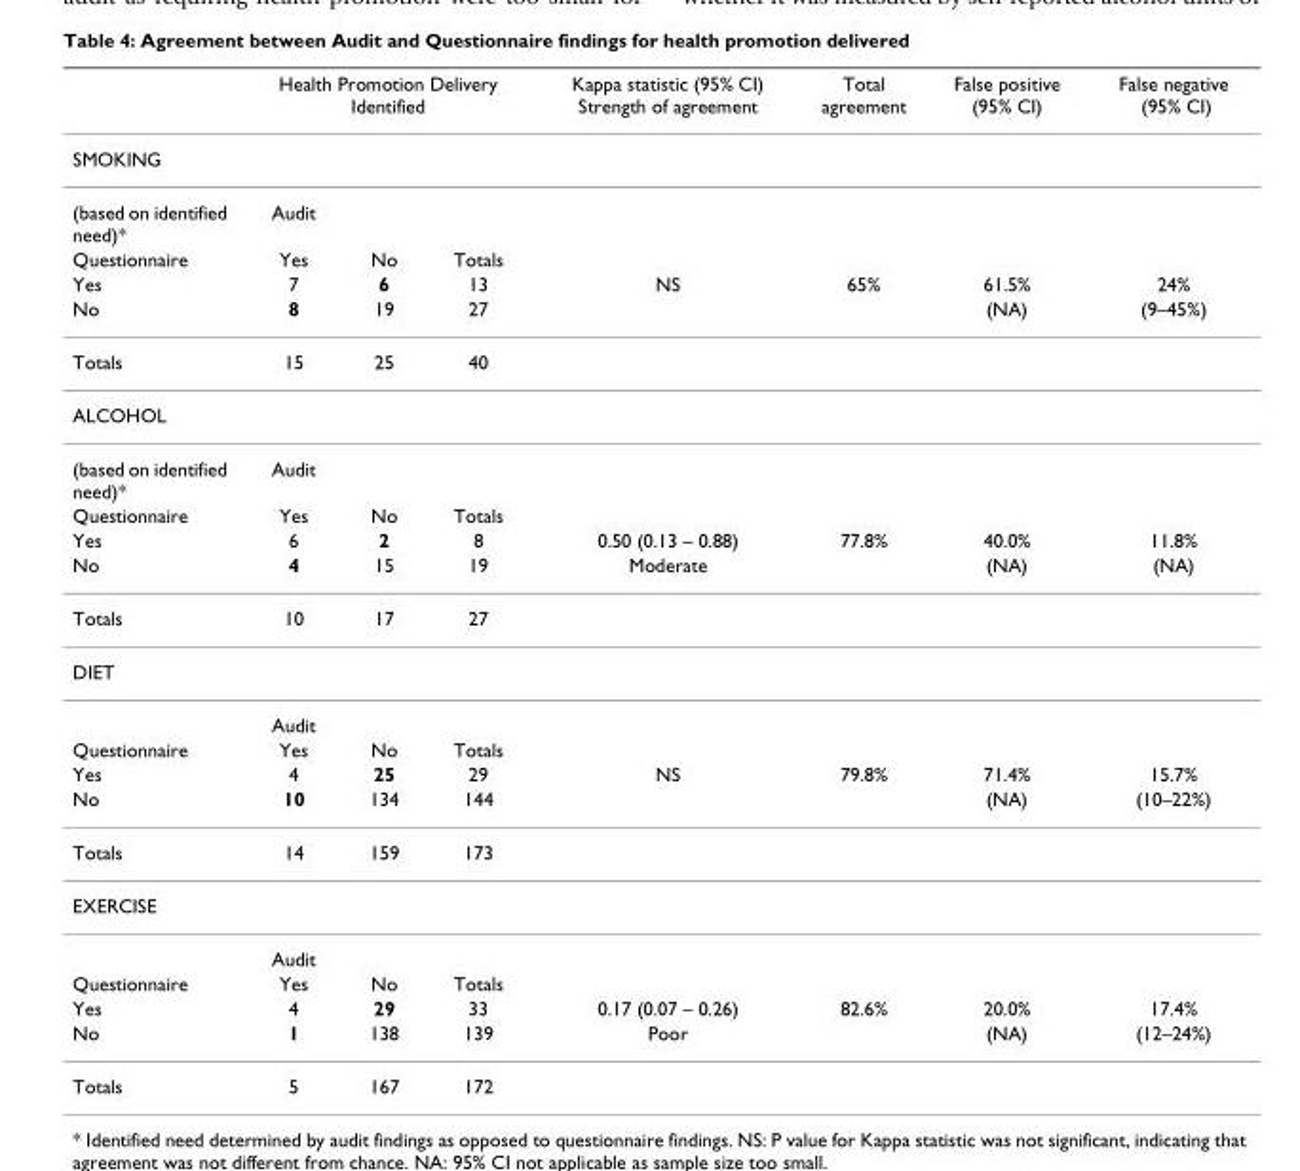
<table><thead><tr><td rowspan="2">SMOKING</td><td colspan="3">Health Promotion Delivery Identified</td><td rowspan="2">Kappa statistic (95% CI) Strength of agreement</td><td rowspan="2">Total agreement</td><td rowspan="2">False positive (95% CI)</td><td rowspan="2">False negative (95% CI)</td></tr><tr><td></td><td></td><td></td></tr></thead><tbody><tr><td>(based on identified need)*</td><td>Audit</td><td></td><td></td><td></td><td></td><td></td><td></td></tr><tr><td>Questionnaire</td><td>Yes</td><td>No</td><td>Totals</td><td></td><td></td><td></td><td></td></tr><tr><td>Yes</td><td>7</td><td>6</td><td>13</td><td>NS</td><td>65%</td><td>61.5%</td><td>24%</td></tr><tr><td>No</td><td>8</td><td>19</td><td>27</td><td></td><td></td><td>(NA)</td><td>(9–45%)</td></tr><tr><td>Totals</td><td>15</td><td>25</td><td>40</td><td></td><td></td><td></td><td></td></tr><tr><td colspan="8">ALCOHOL</td></tr><tr><td>(based on identified need)*</td><td>Audit</td><td></td><td></td><td></td><td></td><td></td><td></td></tr><tr><td>Questionnaire</td><td>Yes</td><td>No</td><td>Totals</td><td></td><td></td><td></td><td></td></tr><tr><td>Yes</td><td>6</td><td>2</td><td>8</td><td>0.50 (0.13 – 0.88)</td><td>77.8%</td><td>40.0%</td><td>11.8%</td></tr><tr><td>No</td><td>4</td><td>15</td><td>19</td><td>Moderate</td><td></td><td>(NA)</td><td>(NA)</td></tr><tr><td>Totals</td><td>10</td><td>17</td><td>27</td><td></td><td></td><td></td><td></td></tr><tr><td colspan="8">DIET</td></tr><tr><td></td><td>Audit</td><td></td><td></td><td></td><td></td><td></td><td></td></tr><tr><td>Questionnaire</td><td>Yes</td><td>No</td><td>Totals</td><td></td><td></td><td></td><td></td></tr><tr><td>Yes</td><td>4</td><td>25</td><td>29</td><td>NS</td><td>79.8%</td><td>71.4%</td><td>15.7%</td></tr><tr><td>No</td><td>10</td><td>134</td><td>144</td><td></td><td></td><td>(NA)</td><td>(10–22%)</td></tr><tr><td>Totals</td><td>14</td><td>159</td><td>173</td><td></td><td></td><td></td><td></td></tr><tr><td colspan="8">EXERCISE</td></tr><tr><td></td><td>Audit</td><td></td><td></td><td></td><td></td><td></td><td></td></tr><tr><td>Questionnaire</td><td>Yes</td><td>No</td><td>Totals</td><td></td><td></td><td></td><td></td></tr><tr><td>Yes</td><td>4</td><td>29</td><td>33</td><td>0.17 (0.07 – 0.26)</td><td>82.6%</td><td>20.0%</td><td>17.4%</td></tr><tr><td>No</td><td>1</td><td>138</td><td>139</td><td>Poor</td><td></td><td>(NA)</td><td>(12–24%)</td></tr><tr><td>Totals</td><td>5</td><td>167</td><td>172</td><td></td><td></td><td></td><td></td></tr></tbody></table>